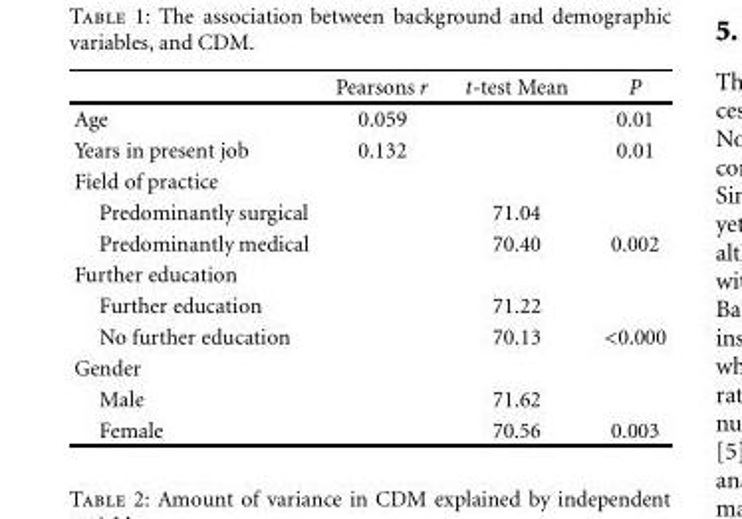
<table><thead><tr><td></td><td>Pearsons r</td><td>t-test Mean</td><td>P</td></tr></thead><tbody><tr><td>Age</td><td>0.059</td><td></td><td>0.01</td></tr><tr><td>Years in present job</td><td>0.132</td><td></td><td>0.01</td></tr><tr><td colspan="4">Field of practice</td></tr><tr><td>Predominantly surgical</td><td></td><td>71.04</td><td></td></tr><tr><td>Predominantly medical</td><td></td><td>70.40</td><td>0.002</td></tr><tr><td colspan="4">Further education</td></tr><tr><td>Further education</td><td></td><td>71.22</td><td></td></tr><tr><td>No further education</td><td></td><td>70.13</td><td>&lt;0.000</td></tr><tr><td colspan="4">Gender</td></tr><tr><td>Male</td><td></td><td>71.62</td><td></td></tr><tr><td>Female</td><td></td><td>70.56</td><td>0.003</td></tr></tbody></table>